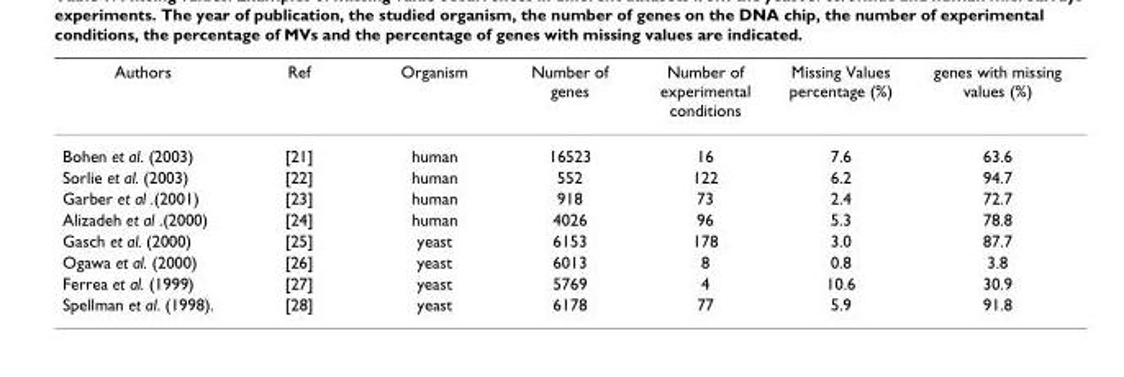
<table><thead><tr><td>Authors</td><td>Ref</td><td>Organism</td><td>Number of genes</td><td>Number of experimental conditions</td><td>Missing Values percentage (%)</td><td>genes with missing values (%)</td></tr></thead><tbody><tr><td>Bohen et al. (2003)</td><td>[21]</td><td>human</td><td>16523</td><td>16</td><td>7.6</td><td>63.6</td></tr><tr><td>Sorlie et al. (2003)</td><td>[22]</td><td>human</td><td>552</td><td>122</td><td>6.2</td><td>94.7</td></tr><tr><td>Garber et al .(2001)</td><td>[23]</td><td>human</td><td>918</td><td>73</td><td>2.4</td><td>72.7</td></tr><tr><td>Alizadeh et al .(2000)</td><td>[24]</td><td>human</td><td>4026</td><td>96</td><td>5.3</td><td>78.8</td></tr><tr><td>Gasch et al. (2000)</td><td>[25]</td><td>yeast</td><td>6153</td><td>178</td><td>3.0</td><td>87.7</td></tr><tr><td>Ogawa et al. (2000)</td><td>[26]</td><td>yeast</td><td>6013</td><td>8</td><td>0.8</td><td>3.8</td></tr><tr><td>Ferrea et al. (1999)</td><td>[27]</td><td>yeast</td><td>5769</td><td>4</td><td>10.6</td><td>30.9</td></tr><tr><td>Spellman et al. (1998).</td><td>[28]</td><td>yeast</td><td>6178</td><td>77</td><td>5.9</td><td>91.8</td></tr></tbody></table>